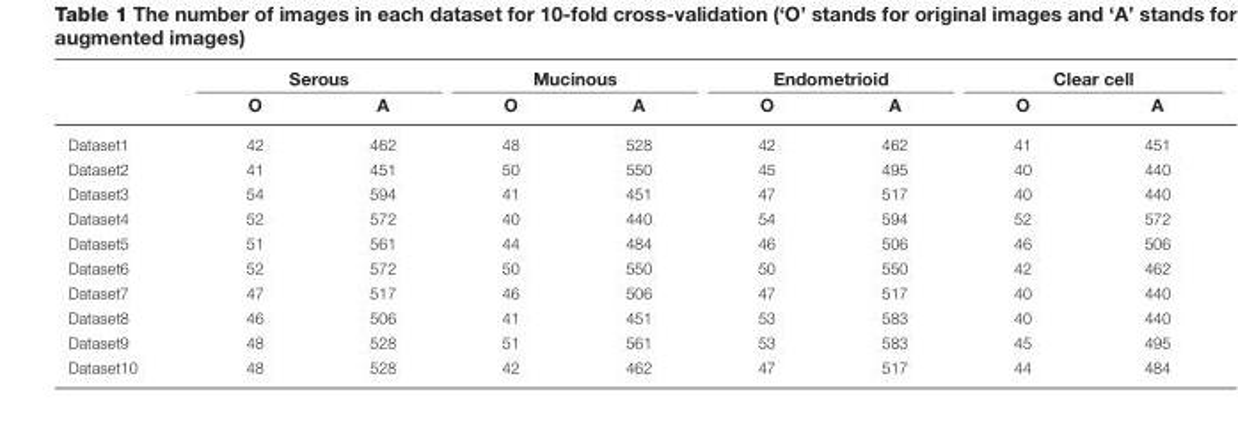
<table><thead><tr><td rowspan="2"></td><td colspan="2">Serous</td><td colspan="2">Mucinous</td><td colspan="2">Endometrioid</td><td colspan="2">Clear cell</td></tr><tr><td>O</td><td>A</td><td>O</td><td>A</td><td>O</td><td>A</td><td>O</td><td>A</td></tr></thead><tbody><tr><td>Dataset1</td><td>42</td><td>462</td><td>48</td><td>528</td><td>42</td><td>462</td><td>41</td><td>451</td></tr><tr><td>Dataset2</td><td>41</td><td>451</td><td>50</td><td>550</td><td>45</td><td>495</td><td>40</td><td>440</td></tr><tr><td>Dataset3</td><td>54</td><td>594</td><td>41</td><td>451</td><td>47</td><td>517</td><td>40</td><td>440</td></tr><tr><td>Dataset4</td><td>52</td><td>572</td><td>40</td><td>440</td><td>54</td><td>594</td><td>52</td><td>572</td></tr><tr><td>Dataset5</td><td>51</td><td>561</td><td>44</td><td>484</td><td>46</td><td>506</td><td>46</td><td>506</td></tr><tr><td>Dataset6</td><td>52</td><td>572</td><td>50</td><td>550</td><td>50</td><td>550</td><td>42</td><td>462</td></tr><tr><td>Dataset7</td><td>47</td><td>517</td><td>46</td><td>506</td><td>47</td><td>517</td><td>40</td><td>440</td></tr><tr><td>Dataset8</td><td>46</td><td>506</td><td>41</td><td>451</td><td>53</td><td>583</td><td>40</td><td>440</td></tr><tr><td>Dataset9</td><td>48</td><td>528</td><td>51</td><td>561</td><td>53</td><td>583</td><td>45</td><td>495</td></tr><tr><td>Dataset10</td><td>48</td><td>528</td><td>42</td><td>462</td><td>47</td><td>517</td><td>44</td><td>484</td></tr></tbody></table>